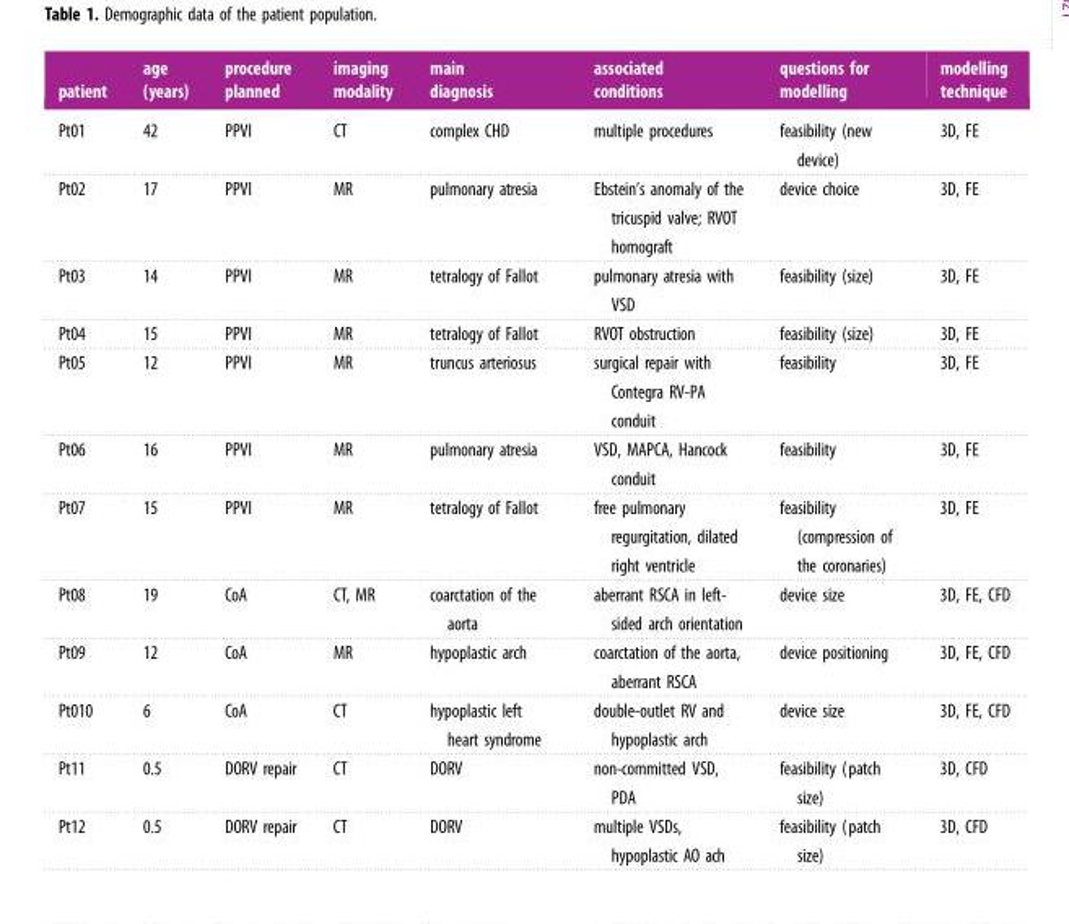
<table><thead><tr><td>patient</td><td>age (years)</td><td>procedure planned</td><td>imaging modality</td><td>main diagnosis</td><td>associated conditions</td><td>questions for modelling</td><td>modelling technique</td></tr></thead><tbody><tr><td>Pt01</td><td>42</td><td>PPVI</td><td>CT</td><td>complex CHD</td><td>multiple procedures</td><td>feasibility (new device)</td><td>3D, FE</td></tr><tr><td>Pt02</td><td>17</td><td>PPVI</td><td>MR</td><td>pulmonary atresia</td><td>Ebstein’s anomaly of the tricuspid valve; RVOT homograft</td><td>device choice</td><td>3D, FE</td></tr><tr><td>Pt03</td><td>14</td><td>PPVI</td><td>MR</td><td>tetralogy of Fallot</td><td>pulmonary atresia with VSD</td><td>feasibility (size)</td><td>3D, FE</td></tr><tr><td>Pt04</td><td>15</td><td>PPVI</td><td>MR</td><td>tetralogy of Fallot</td><td>RVOT obstruction</td><td>feasibility (size)</td><td>3D, FE</td></tr><tr><td>Pt05</td><td>12</td><td>PPVI</td><td>MR</td><td>truncus arteriosus</td><td>surgical repair with Contegra RV-PA conduit</td><td>feasibility</td><td>3D, FE</td></tr><tr><td>Pt06</td><td>16</td><td>PPVI</td><td>MR</td><td>pulmonary atresia</td><td>VSD, MAPCA, Hancock conduit</td><td>feasibility</td><td>3D, FE</td></tr><tr><td>Pt07</td><td>15</td><td>PPVI</td><td>MR</td><td>tetralogy of Fallot</td><td>free pulmonary regurgitation, dilated right ventricle</td><td>feasibility (compression of the coronaries)</td><td>3D, FE</td></tr><tr><td>Pt08</td><td>19</td><td>CoA</td><td>CT, MR</td><td>coarctation of the aorta</td><td>aberrant RSCA in left- sided arch orientation</td><td>device size</td><td>3D, FE, CFD</td></tr><tr><td>Pt09</td><td>12</td><td>CoA</td><td>MR</td><td>hypoplastic arch</td><td>coarctation of the aorta, aberrant RSCA</td><td>device positioning</td><td>3D, FE, CFD</td></tr><tr><td>Pt010</td><td>6</td><td>CoA</td><td>CT</td><td>hypoplastic left heart syndrome</td><td>double-outlet RV and hypoplastic arch</td><td>device size</td><td>3D, FE, CFD</td></tr><tr><td>Pt11</td><td>0.5</td><td>DORV repair</td><td>CT</td><td>DORV</td><td>non-committed VSD, PDA</td><td>feasibility (patch size)</td><td>3D, CFD</td></tr><tr><td>Pt12</td><td>0.5</td><td>DORV repair</td><td>CT</td><td>DORV</td><td>multiple VSDs, hypoplastic AO ach</td><td>feasibility (patch size)</td><td>3D, CFD</td></tr></tbody></table>